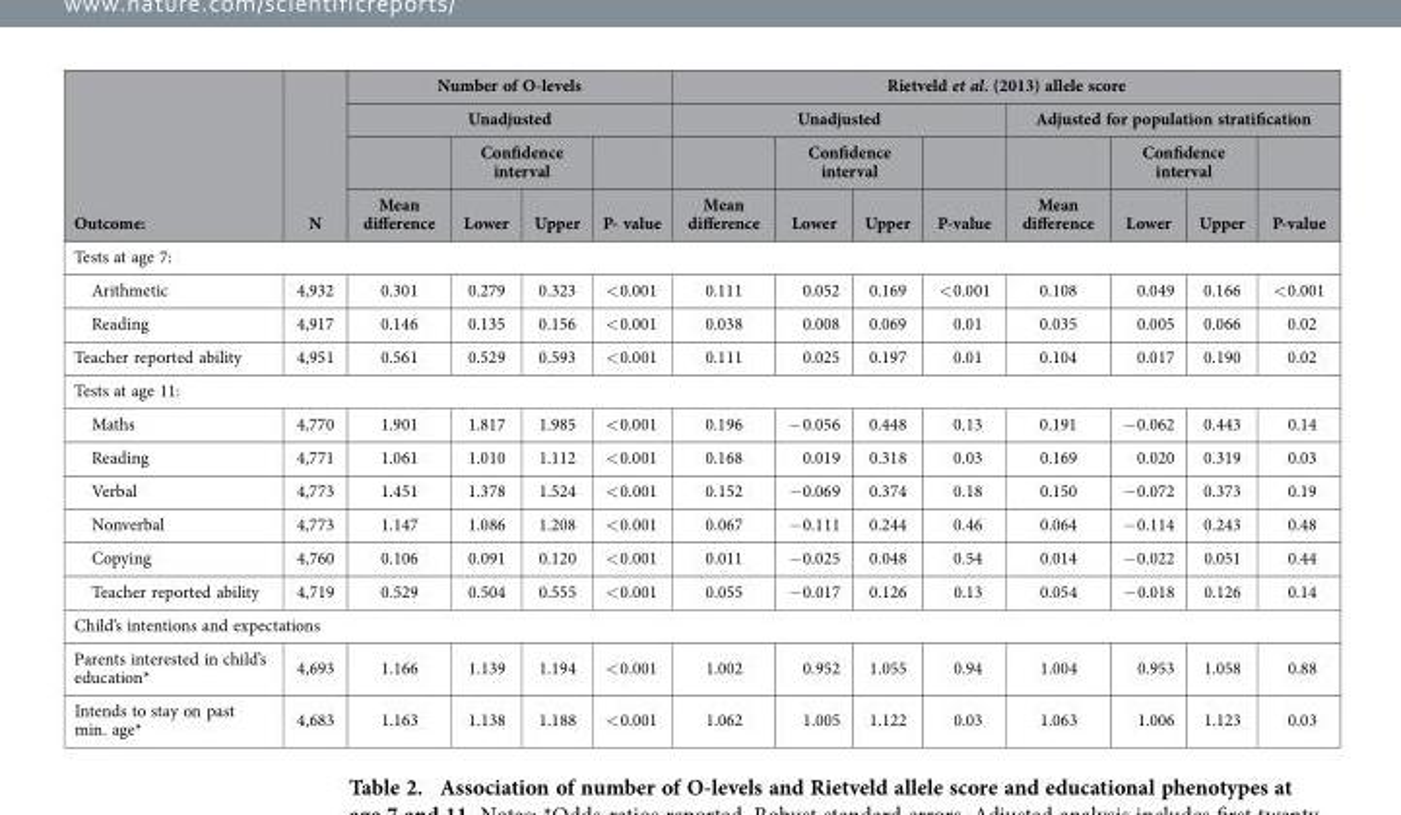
<table><thead><tr><td rowspan="4">Outcome:</td><td rowspan="4">N</td><td rowspan="2" colspan="4">Number of O-levels Unadjusted</td><td colspan="8">Rietveld et al. (2013) allele score</td></tr><tr><td colspan="4">Unadjusted</td><td colspan="4">Adjusted for population stratification</td></tr><tr><td rowspan="2">Mean difference</td><td colspan="2">Confidence interval</td><td rowspan="2">P- value</td><td rowspan="2">Mean difference</td><td colspan="2">Confidence interval</td><td rowspan="2">P-value</td><td rowspan="2">Mean difference</td><td colspan="2">Confidence interval</td><td rowspan="2">P-value</td></tr><tr><td>Lower</td><td>Upper</td><td>Lower</td><td>Upper</td><td>Lower</td><td>Upper</td></tr></thead><tbody><tr><td colspan="14">Tests at age 7:</td></tr><tr><td>Arithmetic</td><td>4,932</td><td>0.301</td><td>0.279</td><td>0.323</td><td>&lt; 0.001</td><td>0.111</td><td>0.052</td><td>0.169</td><td>&lt; 0.001</td><td>0.108</td><td>0.049</td><td>0.166</td><td>&lt; 0.001</td></tr><tr><td>Reading</td><td>4,917</td><td>0.146</td><td>0.135</td><td>0.156</td><td>&lt; 0.001</td><td>0.038</td><td>0.008</td><td>0.069</td><td>0.01</td><td>0.035</td><td>0.005</td><td>0.066</td><td>0.02</td></tr><tr><td>Teacher reported ability</td><td>4,951</td><td>0.561</td><td>0.529</td><td>0.593</td><td>&lt; 0.001</td><td>0.111</td><td>0.025</td><td>0.197</td><td>0.01</td><td>0.104</td><td>0.017</td><td>0.190</td><td>0.02</td></tr><tr><td colspan="14">Tests at age 11:</td></tr><tr><td>Maths</td><td>4,770</td><td>1.901</td><td>1.817</td><td>1.985</td><td>&lt; 0.001</td><td>0.196</td><td>− 0.056</td><td>0.448</td><td>0.13</td><td>0.191</td><td>− 0.062</td><td>0.443</td><td>0.14</td></tr><tr><td>Reading</td><td>4,771</td><td>1.061</td><td>1.010</td><td>1.112</td><td>&lt; 0.001</td><td>0.168</td><td>0.019</td><td>0.318</td><td>0.03</td><td>0.169</td><td>0.020</td><td>0.319</td><td>0.03</td></tr><tr><td>Verbal</td><td>4,773</td><td>1.451</td><td>1.378</td><td>1.524</td><td>&lt; 0.001</td><td>0.152</td><td>− 0.069</td><td>0.374</td><td>0.18</td><td>0.150</td><td>− 0.072</td><td>0.373</td><td>0.19</td></tr><tr><td>Nonverbal</td><td>4,773</td><td>1.147</td><td>1.086</td><td>1.208</td><td>&lt; 0.001</td><td>0.067</td><td>− 0.111</td><td>0.244</td><td>0.46</td><td>0.064</td><td>− 0.114</td><td>0.243</td><td>0.48</td></tr><tr><td>Copying</td><td>4,760</td><td>0.106</td><td>0.091</td><td>0.120</td><td>&lt; 0.001</td><td>0.011</td><td>− 0.025</td><td>0.048</td><td>0.54</td><td>0.014</td><td>− 0.022</td><td>0.051</td><td>0.44</td></tr><tr><td>Teacher reported ability</td><td>4,719</td><td>0.529</td><td>0.504</td><td>0.555</td><td>&lt; 0.001</td><td>0.055</td><td>− 0.017</td><td>0.126</td><td>0.13</td><td>0.054</td><td>− 0.018</td><td>0.126</td><td>0.14</td></tr><tr><td colspan="14">Child’s intentions and expectations</td></tr><tr><td>Parents interested in child’s education*</td><td>4,693</td><td>1.166</td><td>1.139</td><td>1.194</td><td>&lt; 0.001</td><td>1.002</td><td>0.952</td><td>1.055</td><td>0.94</td><td>1.004</td><td>0.953</td><td>1.058</td><td>0.88</td></tr><tr><td>Intends to stay on past min. age*</td><td>4,683</td><td>1.163</td><td>1.138</td><td>1.188</td><td>&lt; 0.001</td><td>1.062</td><td>1.005</td><td>1.122</td><td>0.03</td><td>1.063</td><td>1.006</td><td>1.123</td><td>0.03</td></tr></tbody></table>